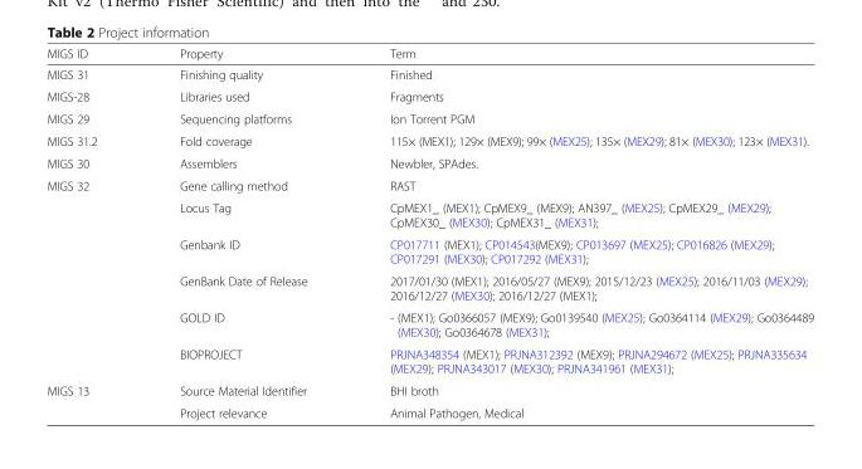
<table><thead><tr><td>MIGS ID</td><td>Property</td><td>Term</td></tr></thead><tbody><tr><td>MIGS 31</td><td>Finishing quality</td><td>Finished</td></tr><tr><td>MIGS-28</td><td>Libraries used</td><td>Fragments</td></tr><tr><td>MIGS 29</td><td>Sequencing platforms</td><td>Ion Torrent PGM</td></tr><tr><td>MIGS 31.2</td><td>Fold coverage</td><td>115× (MEX1); 129× (MEX9); 99× (MEX25); 135× (MEX29); 81× (MEX30); 123× (MEX31).</td></tr><tr><td>MIGS 30</td><td>Assemblers</td><td>Newbler, SPAdes.</td></tr><tr><td rowspan="6">MIGS 32</td><td>Gene calling method</td><td>RAST</td></tr><tr><td>Locus Tag</td><td>CpMEX1_ (MEX1); CpMEX9_ (MEX9); AN397_ (MEX25); CpMEX29_ (MEX29); CpMEX30_ (MEX30); CpMEX31_ (MEX31);</td></tr><tr><td>Genbank ID</td><td>CP017711 (MEX1); CP014543(MEX9); CP013697 (MEX25); CP016826 (MEX29); CP017291 (MEX30); CP017292 (MEX31);</td></tr><tr><td>GenBank Date of Release</td><td>2017/01/30 (MEX1); 2016/05/27 (MEX9); 2015/12/23 (MEX25); 2016/11/03 (MEX29); 2016/12/27 (MEX30); 2016/12/27 (MEX1);</td></tr><tr><td>GOLD ID</td><td>- (MEX1); Go0366057 (MEX9); Go0139540 (MEX25); Go0364114 (MEX29); Go0364489 (MEX30); Go0364678 (MEX31);</td></tr><tr><td>BIOPROJECT</td><td>PRJNA348354 (MEX1); PRJNA312392 (MEX9); PRJNA294672 (MEX25); PRJNA335634 (MEX29); PRJNA343017 (MEX30); PRJNA341961 (MEX31);</td></tr><tr><td rowspan="2">MIGS 13</td><td>Source Material Identifier</td><td>BHI broth</td></tr><tr><td>Project relevance</td><td>Animal Pathogen, Medical</td></tr></tbody></table>